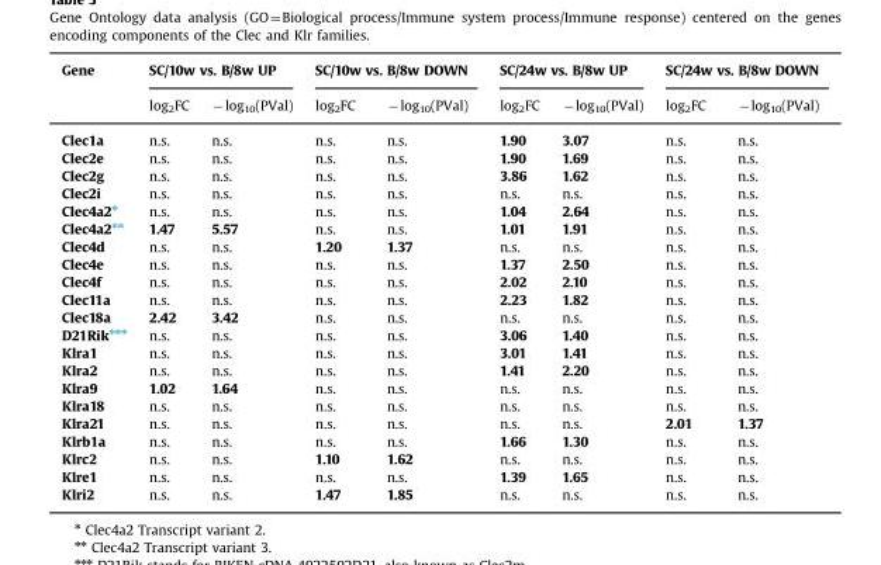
<table><thead><tr><td rowspan="2">Gene</td><td colspan="2">SC/10w vs. B/8w UP</td><td colspan="2">SC/10w vs. B/8w DOWN</td><td colspan="2">SC/24w vs. B/8w UP</td><td colspan="2">SC/24w vs. B/8w DOWN</td></tr><tr><td>log<sub>2</sub>FC</td><td>−log<sub>10</sub>(PVal)</td><td>log<sub>2</sub>FC</td><td>−log<sub>10</sub>(PVal)</td><td>log<sub>2</sub>FC</td><td>−log<sub>10</sub>(PVal)</td><td>log<sub>2</sub>FC</td><td>−log<sub>10</sub>(PVal)</td></tr></thead><tbody><tr><td>Clec1a</td><td>n.s.</td><td>n.s.</td><td>n.s.</td><td>n.s.</td><td>1.90</td><td>3.07</td><td>n.s.</td><td>n.s.</td></tr><tr><td>Clec2e</td><td>n.s.</td><td>n.s.</td><td>n.s.</td><td>n.s.</td><td>1.90</td><td>1.69</td><td>n.s.</td><td>n.s.</td></tr><tr><td>Clec2g</td><td>n.s.</td><td>n.s.</td><td>n.s.</td><td>n.s.</td><td>3.86</td><td>1.62</td><td>n.s.</td><td>n.s.</td></tr><tr><td>Clec2i</td><td>n.s.</td><td>n.s.</td><td>n.s.</td><td>n.s.</td><td>n.s.</td><td>n.s.</td><td>n.s.</td><td>n.s.</td></tr><tr><td>Clec4a2⁎</td><td>n.s.</td><td>n.s.</td><td>n.s.</td><td>n.s.</td><td>1.04</td><td>2.64</td><td>n.s.</td><td>n.s.</td></tr><tr><td>Clec4a2⁎⁎</td><td>1.47</td><td>5.57</td><td>n.s.</td><td>n.s.</td><td>1.01</td><td>1.91</td><td>n.s.</td><td>n.s.</td></tr><tr><td>Clec4d</td><td>n.s.</td><td>n.s.</td><td>1.20</td><td>1.37</td><td>n.s.</td><td>n.s.</td><td>n.s.</td><td>n.s.</td></tr><tr><td>Clec4e</td><td>n.s.</td><td>n.s.</td><td>n.s.</td><td>n.s.</td><td>1.37</td><td>2.50</td><td>n.s.</td><td>n.s.</td></tr><tr><td>Clec4f</td><td>n.s.</td><td>n.s.</td><td>n.s.</td><td>n.s.</td><td>2.02</td><td>2.10</td><td>n.s.</td><td>n.s.</td></tr><tr><td>Clec11a</td><td>n.s.</td><td>n.s.</td><td>n.s.</td><td>n.s.</td><td>2.23</td><td>1.82</td><td>n.s.</td><td>n.s.</td></tr><tr><td>Clec18a</td><td>2.42</td><td>3.42</td><td>n.s.</td><td>n.s.</td><td>n.s.</td><td>n.s.</td><td>n.s.</td><td>n.s.</td></tr><tr><td>D21Rik⁎⁎⁎</td><td>n.s.</td><td>n.s.</td><td>n.s.</td><td>n.s.</td><td>3.06</td><td>1.40</td><td>n.s.</td><td>n.s.</td></tr><tr><td>Klra1</td><td>n.s.</td><td>n.s.</td><td>n.s.</td><td>n.s.</td><td>3.01</td><td>1.41</td><td>n.s.</td><td>n.s.</td></tr><tr><td>Klra2</td><td>n.s.</td><td>n.s.</td><td>n.s.</td><td>n.s.</td><td>1.41</td><td>2.20</td><td>n.s.</td><td>n.s.</td></tr><tr><td>Klra9</td><td>1.02</td><td>1.64</td><td>n.s.</td><td>n.s.</td><td>n.s.</td><td>n.s.</td><td>n.s.</td><td>n.s.</td></tr><tr><td>Klra18</td><td>n.s.</td><td>n.s.</td><td>n.s.</td><td>n.s.</td><td>n.s.</td><td>n.s.</td><td>n.s.</td><td>n.s.</td></tr><tr><td>Klra21</td><td>n.s.</td><td>n.s.</td><td>n.s.</td><td>n.s.</td><td>n.s.</td><td>n.s.</td><td>2.01</td><td>1.37</td></tr><tr><td>Klrb1a</td><td>n.s.</td><td>n.s.</td><td>n.s.</td><td>n.s.</td><td>1.66</td><td>1.30</td><td>n.s.</td><td>n.s.</td></tr><tr><td>Klrc2</td><td>n.s.</td><td>n.s.</td><td>1.10</td><td>1.62</td><td>n.s.</td><td>n.s.</td><td>n.s.</td><td>n.s.</td></tr><tr><td>Klre1</td><td>n.s.</td><td>n.s.</td><td>n.s.</td><td>n.s.</td><td>1.39</td><td>1.65</td><td>n.s.</td><td>n.s.</td></tr><tr><td>Klri2</td><td>n.s.</td><td>n.s.</td><td>1.47</td><td>1.85</td><td>n.s.</td><td>n.s.</td><td>n.s.</td><td>n.s.</td></tr></tbody></table>